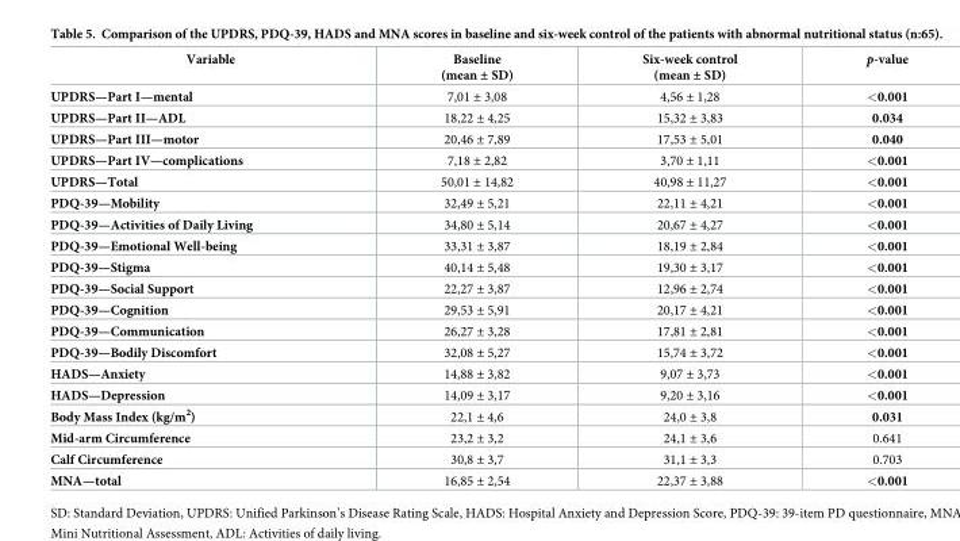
<table><thead><tr><td>Variable</td><td>Baseline (mean ± SD)</td><td>Six-week control (mean ± SD)</td><td>p-value</td></tr></thead><tbody><tr><td>UPDRS—Part I—mental</td><td>7,01 ± 3,08</td><td>4,56 ± 1,28</td><td>&lt;0.001</td></tr><tr><td>UPDRS—Part II—ADL</td><td>18,22 ± 4,25</td><td>15,32 ± 3,83</td><td>0.034</td></tr><tr><td>UPDRS—Part III—motor</td><td>20,46 ± 7,89</td><td>17,53 ± 5,01</td><td>0.040</td></tr><tr><td>UPDRS—Part IV—complications</td><td>7,18 ± 2,82</td><td>3,70 ± 1,11</td><td>&lt;0.001</td></tr><tr><td>UPDRS—Total</td><td>50,01 ± 14,82</td><td>40,98 ± 11,27</td><td>&lt;0.001</td></tr><tr><td>PDQ-39—Mobility</td><td>32,49 ± 5,21</td><td>22,11 ± 4,21</td><td>&lt;0.001</td></tr><tr><td>PDQ-39—Activities of Daily Living</td><td>34,80 ± 5,14</td><td>20,67 ± 4,27</td><td>&lt;0.001</td></tr><tr><td>PDQ-39—Emotional Well-being</td><td>33,31 ± 3,87</td><td>18,19 ± 2,84</td><td>&lt;0.001</td></tr><tr><td>PDQ-39—Stigma</td><td>40,14 ± 5,48</td><td>19,30 ± 3,17</td><td>&lt;0.001</td></tr><tr><td>PDQ-39—Social Support</td><td>22,27 ± 3,87</td><td>12,96 ± 2,74</td><td>&lt;0.001</td></tr><tr><td>PDQ-39—Cognition</td><td>29,53 ± 5,91</td><td>20,17 ± 4,21</td><td>&lt;0.001</td></tr><tr><td>PDQ-39—Communication</td><td>26,27 ± 3,28</td><td>17,81 ± 2,81</td><td>&lt;0.001</td></tr><tr><td>PDQ-39—Bodily Discomfort</td><td>32,08 ± 5,27</td><td>15,74 ± 3,72</td><td>&lt;0.001</td></tr><tr><td>HADS—Anxiety</td><td>14,88 ± 3,82</td><td>9,07 ± 3,73</td><td>&lt;0.001</td></tr><tr><td>HADS—Depression</td><td>14,09 ± 3,17</td><td>9,20 ± 3,16</td><td>&lt;0.001</td></tr><tr><td>Body Mass Index (kg/m<sup>2</sup>)</td><td>22,1 ± 4,6</td><td>24,0 ± 3,8</td><td>0.031</td></tr><tr><td>Mid-arm Circumference</td><td>23,2 ± 3,2</td><td>24,1 ± 3,6</td><td>0.641</td></tr><tr><td>Calf Circumference</td><td>30,8 ± 3,7</td><td>31,1 ± 3,3</td><td>0.703</td></tr><tr><td>MNA—total</td><td>16,85 ± 2,54</td><td>22,37 ± 3,88</td><td>&lt;0.001</td></tr></tbody></table>